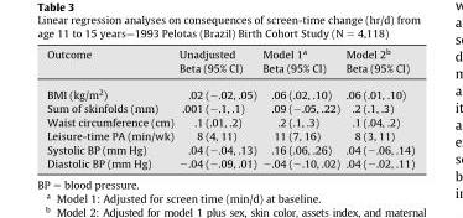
<table><thead><tr><td rowspan="2">Outcome</td><td rowspan="2">Unadjusted Beta (95% CI)</td><td rowspan="2">Model 1<sup>a</sup> Beta (95% CI)</td><td rowspan="2">Model 2<sup>b</sup> Beta (95% CI)</td></tr><tr></tr></thead><tbody><tr><td>BMI (kg/m<sup>2</sup>)</td><td>.02 (−.02, .05)</td><td>.06 (.02, .10)</td><td>.06 (.01, .10)</td></tr><tr><td>Sum of skinfolds (mm)</td><td>.001 (−.1, .1)</td><td>.09 (−.05, .22)</td><td>.2 (.1, .3)</td></tr><tr><td>Waist circumference (cm)</td><td>.1 (.01, .2)</td><td>.2 (.1, .3)</td><td>.1 (.04, .2)</td></tr><tr><td>Leisure-time PA (min/wk)</td><td>8 (4, 11)</td><td>11 (7, 16)</td><td>8 (3, 11)</td></tr><tr><td>Systolic BP (mm Hg)</td><td>.04 (−.04, .13)</td><td>.16 (.06, .26)</td><td>.04 (−.06, .14)</td></tr><tr><td>Diastolic BP (mm Hg)</td><td>−.04 (−.09, .01)</td><td>−.04 (−.10, .02)</td><td>.04 (−.02, .11)</td></tr></tbody></table>